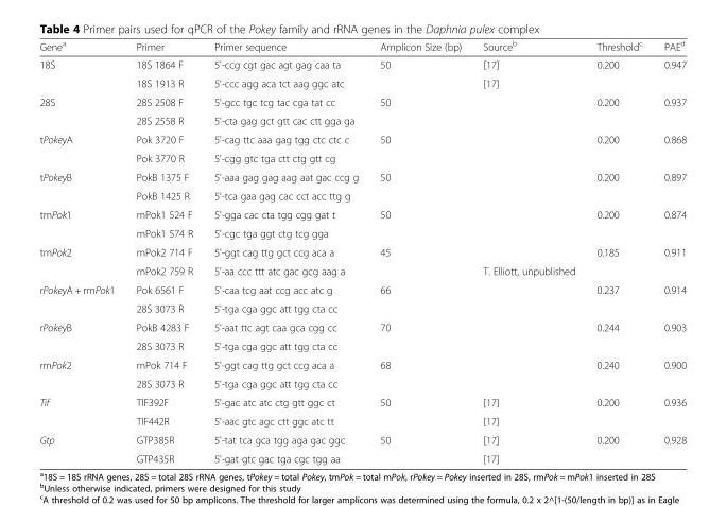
<table><thead><tr><td>Gene<sup>a</sup></td><td>Primer</td><td>Primer sequence</td><td>Amplicon Size (bp)</td><td>Source<sup>b</sup></td><td>Threshold<sup>c</sup></td><td>PAE<sup>d</sup></td></tr></thead><tbody><tr><td rowspan="2">18S</td><td>18S 1864 F</td><td>5&#x27;-ccg cgt gac agt gag caa ta</td><td>50</td><td>[17]</td><td>0.200</td><td>0.947</td></tr><tr><td>18S 1913 R</td><td>5&#x27;-ccc agg aca tct aag ggc atc</td><td></td><td>[17]</td><td></td><td></td></tr><tr><td rowspan="2">28S</td><td>28S 2508 F</td><td>5&#x27;-gcc tgc tcg tac cga tat cc</td><td>50</td><td></td><td>0.200</td><td>0.937</td></tr><tr><td>28S 2558 R</td><td>5&#x27;-cta gag gct gtt cac ctt gga ga</td><td></td><td></td><td></td><td></td></tr><tr><td rowspan="2">tPokeyA</td><td>Pok 3720 F</td><td>5&#x27;-cag ttc aaa gag tgg ctc ctc c</td><td>50</td><td></td><td>0.200</td><td>0.868</td></tr><tr><td>Pok 3770 R</td><td>5&#x27;-cgg gtc tga ctt ctg gtt cg</td><td></td><td></td><td></td><td></td></tr><tr><td rowspan="2">tPokeyB</td><td>PokB 1375 F</td><td>5&#x27;-aaa gag gag aag aat gac ccg g</td><td>50</td><td></td><td>0.200</td><td>0.897</td></tr><tr><td>PokB 1425 R</td><td>5&#x27;-tca gaa gag cac cct acc ttg g</td><td></td><td></td><td></td><td></td></tr><tr><td rowspan="2">tmPok1</td><td>mPok1 524 F</td><td>5&#x27;-gga cac cta tgg cgg gat t</td><td>50</td><td></td><td>0.200</td><td>0.874</td></tr><tr><td>mPok1 574 R</td><td>5&#x27;-cgc tga ggt ctg tcg gga</td><td></td><td></td><td></td><td></td></tr><tr><td rowspan="2">tmPok2</td><td>mPok2 714 F</td><td>5&#x27;-ggt cag ttg gct ccg aca a</td><td>45</td><td></td><td>0.185</td><td>0.911</td></tr><tr><td>mPok2 759 R</td><td>5&#x27;-aa ccc ttt atc gac gcg aag a</td><td></td><td>T. Elliott, unpublished</td><td></td><td></td></tr><tr><td rowspan="2">rPokeyA + rmPok1</td><td>Pok 6561 F</td><td>5&#x27;-caa tcg aat ccg acc atc g</td><td>66</td><td></td><td>0.237</td><td>0.914</td></tr><tr><td>28S 3073 R</td><td>5&#x27;-tga cga ggc att tgg cta cc</td><td></td><td></td><td></td><td></td></tr><tr><td rowspan="2">rPokeyB</td><td>PokB 4283 F</td><td>5&#x27;-aat ttc agt caa gca cgg cc</td><td>70</td><td></td><td>0.244</td><td>0.903</td></tr><tr><td>28S 3073 R</td><td>5&#x27;-tga cga ggc att tgg cta cc</td><td></td><td></td><td></td><td></td></tr><tr><td rowspan="2">rmPok2</td><td>mPok 714 F</td><td>5&#x27;-ggt cag ttg gct ccg aca a</td><td>68</td><td></td><td>0.240</td><td>0.900</td></tr><tr><td>28S 3073 R</td><td>5&#x27;-tga cga ggc att tgg cta cc</td><td></td><td></td><td></td><td></td></tr><tr><td rowspan="2">Tif</td><td>TIF392F</td><td>5&#x27;-gac atc atc ctg gtt ggc ct</td><td>50</td><td>[17]</td><td>0.200</td><td>0.936</td></tr><tr><td>TIF442R</td><td>5&#x27;-aac gtc agc ctt ggc atc tt</td><td></td><td>[17]</td><td></td><td></td></tr><tr><td rowspan="2">Gtp</td><td>GTP385R</td><td>5&#x27;-tat tca gca tgg aga gac ggc</td><td>50</td><td>[17]</td><td>0.200</td><td>0.928</td></tr><tr><td>GTP435R</td><td>5&#x27;-gat gtc gac tga cgc tgg aa</td><td></td><td>[17]</td><td></td><td></td></tr></tbody></table>